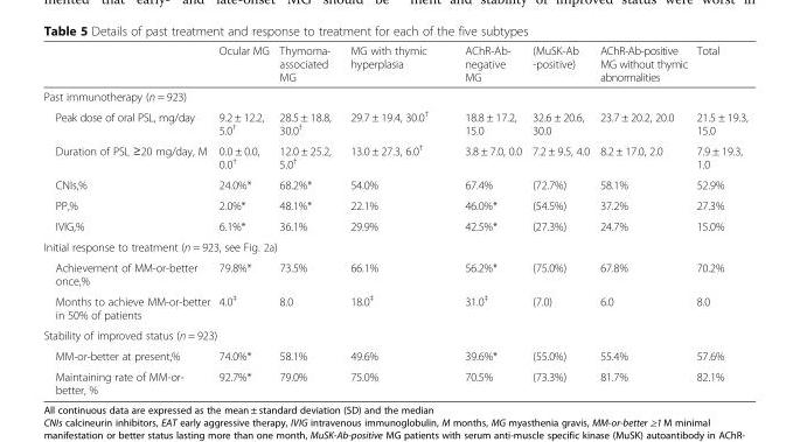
<table><thead><tr><td></td><td>Ocular MG</td><td>Thymoma- associated MG</td><td>MG with thymic hyperplasia</td><td>AChR-Ab- negative MG</td><td>(MuSK-Ab -positive)</td><td>AChR-Ab-positive MG without thymic abnormalities</td><td>Total</td></tr></thead><tbody><tr><td colspan="8">Past immunotherapy (n = 923)</td></tr><tr><td>Peak dose of oral PSL, mg/day</td><td>9.2 ± 12.2, 5.0<sup>†</sup></td><td>28.5 ± 18.8, 30.0<sup>†</sup></td><td>29.7 ± 19.4, 30.0<sup>†</sup></td><td>18.8 ± 17.2, 15.0</td><td>32.6 ± 20.6, 30.0</td><td>23.7 ± 20.2, 20.0</td><td>21.5 ± 19.3, 15.0</td></tr><tr><td>Duration of PSL ≥20 mg/day, M</td><td>0.0 ± 0.0, 0.0<sup>†</sup></td><td>12.0 ± 25.2, 5.0<sup>†</sup></td><td>13.0 ± 27.3, 6.0<sup>†</sup></td><td>3.8 ± 7.0, 0.0</td><td>7.2 ± 9.5, 4.0</td><td>8.2 ± 17.0, 2.0</td><td>7.9 ± 19.3, 1.0</td></tr><tr><td>CNIs,%</td><td>24.0%*</td><td>68.2%*</td><td>54.0%</td><td>67.4%</td><td>(72.7%)</td><td>58.1%</td><td>52.9%</td></tr><tr><td>PP,%</td><td>2.0%*</td><td>48.1%*</td><td>22.1%</td><td>46.0%*</td><td>(54.5%)</td><td>37.2%</td><td>27.3%</td></tr><tr><td>IVIG,%</td><td>6.1%*</td><td>36.1%</td><td>29.9%</td><td>42.5%*</td><td>(27.3%)</td><td>24.7%</td><td>15.0%</td></tr><tr><td colspan="8">Initial response to treatment (n = 923, see Fig. 2a)</td></tr><tr><td>Achievement of MM-or-better once,%</td><td>79.8%*</td><td>73.5%</td><td>66.1%</td><td>56.2%*</td><td>(75.0%)</td><td>67.8%</td><td>70.2%</td></tr><tr><td>Months to achieve MM-or-better in 50% of patients</td><td>4.0<sup>‡</sup></td><td>8.0</td><td>18.0<sup>‡</sup></td><td>31.0<sup>‡</sup></td><td>(7.0)</td><td>6.0</td><td>8.0</td></tr><tr><td colspan="8">Stability of improved status (n = 923)</td></tr><tr><td>MM-or-better at present,%</td><td>74.0%*</td><td>58.1%</td><td>49.6%</td><td>39.6%*</td><td>(55.0%)</td><td>55.4%</td><td>57.6%</td></tr><tr><td>Maintaining rate of MM-or- better, %</td><td>92.7%*</td><td>79.0%</td><td>75.0%</td><td>70.5%</td><td>(73.3%)</td><td>81.7%</td><td>82.1%</td></tr></tbody></table>